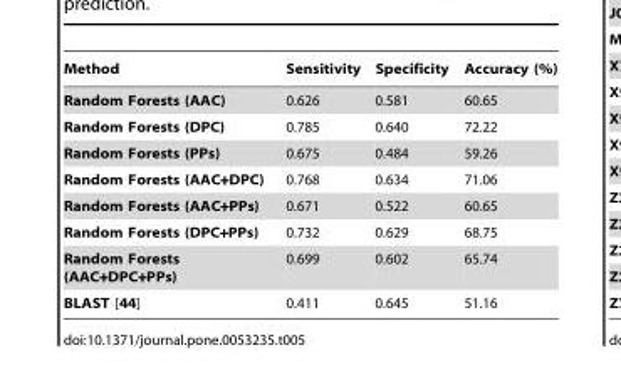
<table><thead><tr><td>Method</td><td>Sensitivity</td><td>Specificity</td><td>Accuracy (%)</td></tr></thead><tbody><tr><td>Random Forests (AAC)</td><td>0.626</td><td>0.581</td><td>60.65</td></tr><tr><td>Random Forests (DPC)</td><td>0.785</td><td>0.640</td><td>72.22</td></tr><tr><td>Random Forests (PPs)</td><td>0.675</td><td>0.484</td><td>59.26</td></tr><tr><td>Random Forests (AAC+DPC)</td><td>0.768</td><td>0.634</td><td>71.06</td></tr><tr><td>Random Forests (AAC+PPs)</td><td>0.671</td><td>0.522</td><td>60.65</td></tr><tr><td>Random Forests (DPC+PPs)</td><td>0.732</td><td>0.629</td><td>68.75</td></tr><tr><td>Random Forests (AAC+DPC+PPs)</td><td>0.699</td><td>0.602</td><td>65.74</td></tr><tr><td>BLAST [44]</td><td>0.411</td><td>0.645</td><td>51.16</td></tr></tbody></table>